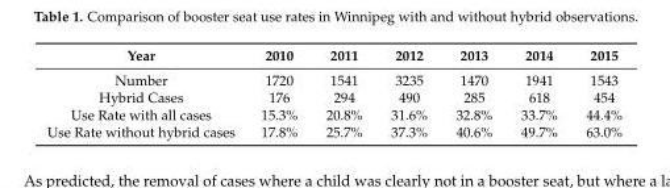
<table><thead><tr><td>Year</td><td>2010</td><td>2011</td><td>2012</td><td>2013</td><td>2014</td><td>2015</td></tr></thead><tbody><tr><td>Number</td><td>1720</td><td>1541</td><td>3235</td><td>1470</td><td>1941</td><td>1543</td></tr><tr><td>Hybrid Cases</td><td>176</td><td>294</td><td>490</td><td>285</td><td>618</td><td>454</td></tr><tr><td>Use Rate with all cases</td><td>15.3%</td><td>20.8%</td><td>31.6%</td><td>32.8%</td><td>33.7%</td><td>44.4%</td></tr><tr><td>Use Rate without hybrid cases</td><td>17.8%</td><td>25.7%</td><td>37.3%</td><td>40.6%</td><td>49.7%</td><td>63.0%</td></tr></tbody></table>